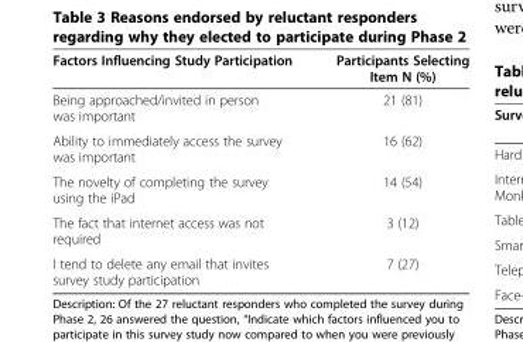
<table><thead><tr><td>Factors Influencing Study Participation</td><td>Participants Selecting Item N (%)</td></tr></thead><tbody><tr><td>Being approached/invited in person was important</td><td>21 (81)</td></tr><tr><td>Ability to immediately access the survey was important</td><td>16 (62)</td></tr><tr><td>The novelty of completing the survey using the iPad</td><td>14 (54)</td></tr><tr><td>The fact that internet access was not required</td><td>3 (12)</td></tr><tr><td>I tend to delete any email that invites survey study participation</td><td>7 (27)</td></tr></tbody></table>